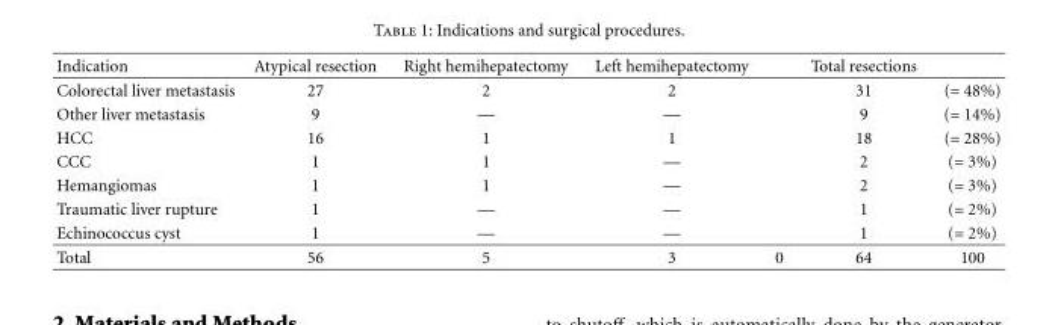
<table><thead><tr><td>Indication</td><td>Atypical resection</td><td>Right hemihepatectomy</td><td>Left hemihepatectomy</td><td></td><td>Total resections</td><td></td></tr></thead><tbody><tr><td>Colorectal liver metastasis</td><td>27</td><td>2</td><td>2</td><td></td><td>31</td><td>(= 48%)</td></tr><tr><td>Other liver metastasis</td><td>9</td><td>—</td><td>—</td><td></td><td>9</td><td>(= 14%)</td></tr><tr><td>HCC</td><td>16</td><td>1</td><td>1</td><td></td><td>18</td><td>(= 28%)</td></tr><tr><td>CCC</td><td>1</td><td>1</td><td>—</td><td></td><td>2</td><td>(= 3%)</td></tr><tr><td>Hemangiomas</td><td>1</td><td>1</td><td>—</td><td></td><td>2</td><td>(= 3%)</td></tr><tr><td>Traumatic liver rupture</td><td>1</td><td>—</td><td>—</td><td></td><td>1</td><td>(= 2%)</td></tr><tr><td>Echinococcus cyst</td><td>1</td><td>—</td><td>—</td><td></td><td>1</td><td>(= 2%)</td></tr><tr><td>Total</td><td>56</td><td>5</td><td>3</td><td>0</td><td>64</td><td>100</td></tr></tbody></table>